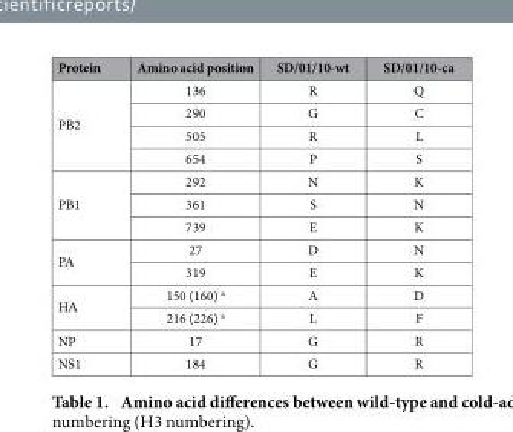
<table><thead><tr><td>Protein</td><td>Amino acid position</td><td>SD/01/10-wt</td><td>SD/01/10-ca</td></tr></thead><tbody><tr><td rowspan="4">PB2</td><td>136</td><td>R</td><td>Q</td></tr><tr><td>290</td><td>G</td><td>C</td></tr><tr><td>505</td><td>R</td><td>L</td></tr><tr><td>654</td><td>P</td><td>S</td></tr><tr><td rowspan="3">PB1</td><td>292</td><td>N</td><td>K</td></tr><tr><td>361</td><td>S</td><td>N</td></tr><tr><td>739</td><td>E</td><td>K</td></tr><tr><td rowspan="2">PA</td><td>27</td><td>D</td><td>N</td></tr><tr><td>319</td><td>E</td><td>K</td></tr><tr><td rowspan="2">HA</td><td>150 (160) <sup>a</sup></td><td>A</td><td>D</td></tr><tr><td>216 (226) <sup>a</sup></td><td>L</td><td>F</td></tr><tr><td>NP</td><td>17</td><td>G</td><td>R</td></tr><tr><td>NS1</td><td>184</td><td>G</td><td>R</td></tr></tbody></table>